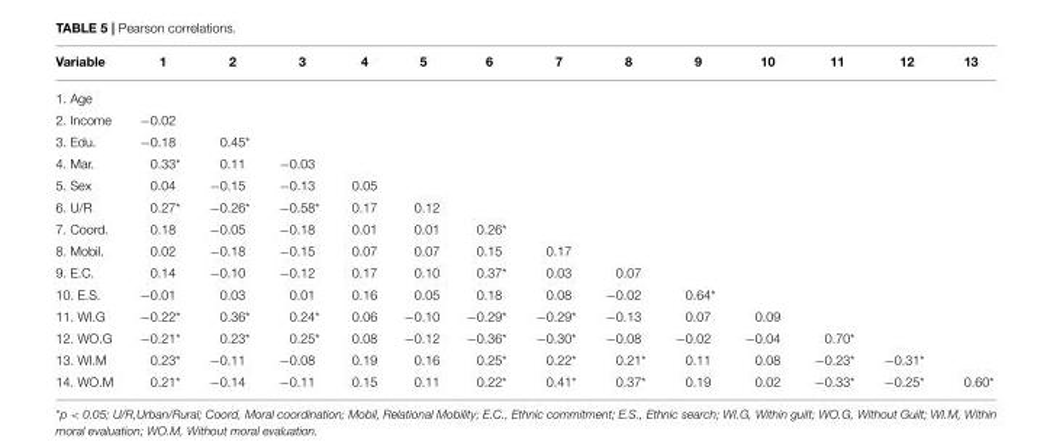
<table><thead><tr><td>Variable</td><td>1</td><td>2</td><td>3</td><td>4</td><td>5</td><td>6</td><td>7</td><td>8</td><td>9</td><td>10</td><td>11</td><td>12</td><td>13</td></tr></thead><tbody><tr><td colspan="14">1. Age</td></tr><tr><td>2. Income</td><td>−0.02</td><td></td><td></td><td></td><td></td><td></td><td></td><td></td><td></td><td></td><td></td><td></td><td></td></tr><tr><td>3. Edu.</td><td>−0.18</td><td>0.45*</td><td></td><td></td><td></td><td></td><td></td><td></td><td></td><td></td><td></td><td></td><td></td></tr><tr><td>4. Mar.</td><td>0.33*</td><td>0.11</td><td>−0.03</td><td></td><td></td><td></td><td></td><td></td><td></td><td></td><td></td><td></td><td></td></tr><tr><td>5. Sex</td><td>0.04</td><td>−0.15</td><td>−0.13</td><td>0.05</td><td></td><td></td><td></td><td></td><td></td><td></td><td></td><td></td><td></td></tr><tr><td>6. U/R</td><td>0.27*</td><td>−0.26*</td><td>−0.58*</td><td>0.17</td><td>0.12</td><td></td><td></td><td></td><td></td><td></td><td></td><td></td><td></td></tr><tr><td>7. Coord.</td><td>0.18</td><td>−0.05</td><td>−0.18</td><td>0.01</td><td>0.01</td><td>0.26*</td><td></td><td></td><td></td><td></td><td></td><td></td><td></td></tr><tr><td>8. Mobil.</td><td>0.02</td><td>−0.18</td><td>−0.15</td><td>0.07</td><td>0.07</td><td>0.15</td><td>0.17</td><td></td><td></td><td></td><td></td><td></td><td></td></tr><tr><td>9. E.C.</td><td>0.14</td><td>−0.10</td><td>−0.12</td><td>0.17</td><td>0.10</td><td>0.37*</td><td>0.03</td><td>0.07</td><td></td><td></td><td></td><td></td><td></td></tr><tr><td>10. E.S.</td><td>−0.01</td><td>0.03</td><td>0.01</td><td>0.16</td><td>0.05</td><td>0.18</td><td>0.08</td><td>−0.02</td><td>0.64*</td><td></td><td></td><td></td><td></td></tr><tr><td>11. WI.G</td><td>−0.22*</td><td>0.36*</td><td>0.24*</td><td>0.06</td><td>−0.10</td><td>−0.29*</td><td>−0.29*</td><td>−0.13</td><td>0.07</td><td>0.09</td><td></td><td></td><td></td></tr><tr><td>12. WO.G</td><td>−0.21*</td><td>0.23*</td><td>0.25*</td><td>0.08</td><td>−0.12</td><td>−0.36*</td><td>−0.30*</td><td>−0.08</td><td>−0.02</td><td>−0.04</td><td>0.70*</td><td></td><td></td></tr><tr><td>13. WI.M</td><td>0.23*</td><td>−0.11</td><td>−0.08</td><td>0.19</td><td>0.16</td><td>0.25*</td><td>0.22*</td><td>0.21*</td><td>0.11</td><td>0.08</td><td>−0.23*</td><td>−0.31*</td><td></td></tr><tr><td>14. WO.M</td><td>0.21*</td><td>−0.14</td><td>−0.11</td><td>0.15</td><td>0.11</td><td>0.22*</td><td>0.41*</td><td>0.37*</td><td>0.19</td><td>0.02</td><td>−0.33*</td><td>−0.25*</td><td>0.60*</td></tr></tbody></table>